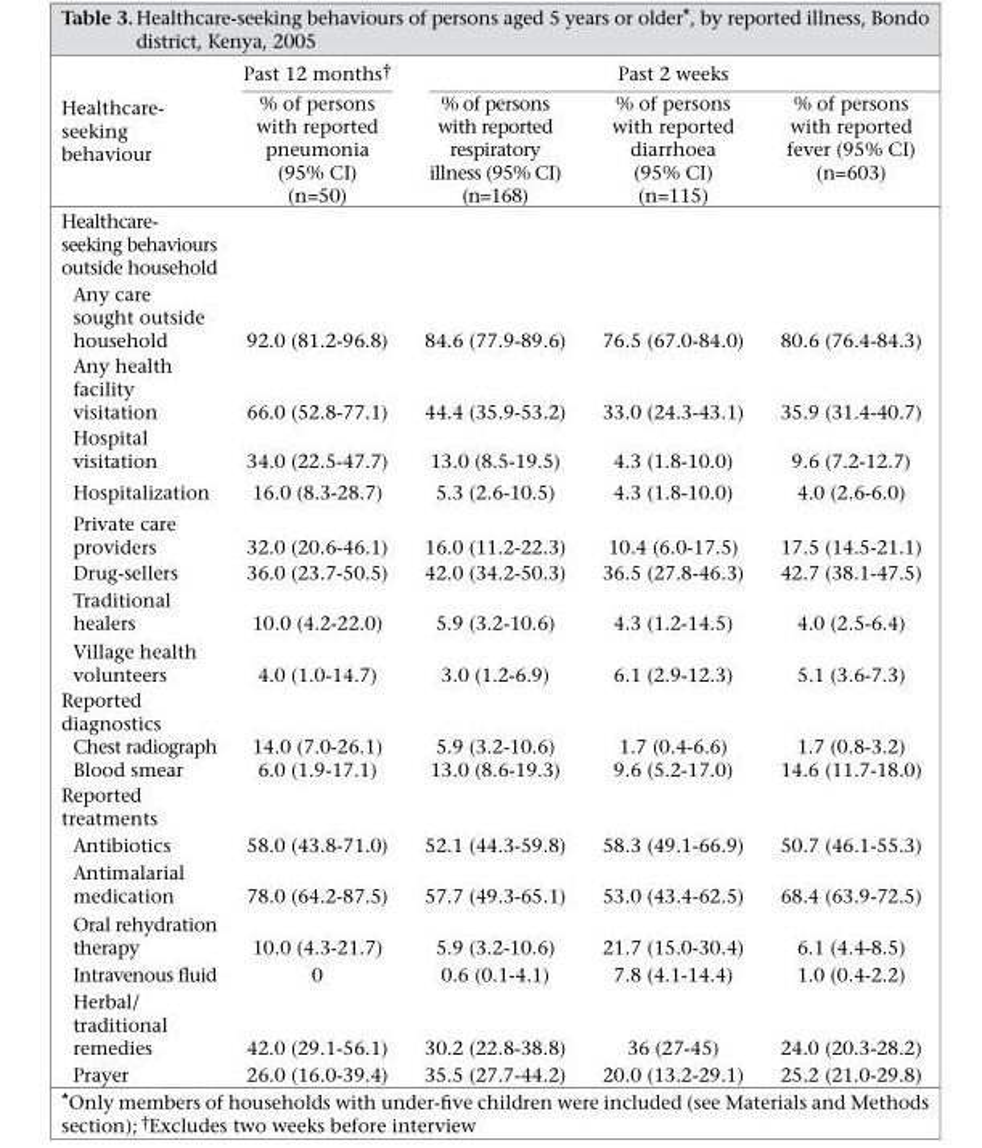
<table><thead><tr><td rowspan="2">Healthcare- seeking behaviour</td><td rowspan="2">Past 12 months† % of persons with reported pneumonia (95% CI) (n=50)</td><td colspan="3">Past 2 weeks</td></tr><tr><td>% of persons with reported respiratory illness (95% CI) (n=168)</td><td>% of persons with reported diarrhoea (95% CI) (n=115)</td><td>% of persons with reported fever (95% CI) (n=603)</td></tr></thead><tbody><tr><td colspan="5">Healthcare- seeking behaviours outside household</td></tr><tr><td>Any care sought outside household</td><td>92.0 (81.2-96.8)</td><td>84.6 (77.9-89.6)</td><td>76.5 (67.0-84.0)</td><td>80.6 (76.4-84.3)</td></tr><tr><td>Any health facility visitation</td><td>66.0 (52.8-77.1)</td><td>44.4 (35.9-53.2)</td><td>33.0 (24.3-43.1)</td><td>35.9 (31.4-40.7)</td></tr><tr><td>Hospital visitation</td><td>34.0 (22.5-47.7)</td><td>13.0 (8.5-19.5)</td><td>4.3 (1.8-10.0)</td><td>9.6 (7.2-12.7)</td></tr><tr><td>Hospitalization</td><td>16.0 (8.3-28.7)</td><td>5.3 (2.6-10.5)</td><td>4.3 (1.8-10.0)</td><td>4.0 (2.6-6.0)</td></tr><tr><td>Private care providers</td><td>32.0 (20.6-46.1)</td><td>16.0 (11.2-22.3)</td><td>10.4 (6.0-17.5)</td><td>17.5 (14.5-21.1)</td></tr><tr><td>Drug-sellers</td><td>36.0 (23.7-50.5)</td><td>42.0 (34.2-50.3)</td><td>36.5 (27.8-46.3)</td><td>42.7 (38.1-47.5)</td></tr><tr><td>Traditional healers</td><td>10.0 (4.2-22.0)</td><td>5.9 (3.2-10.6)</td><td>4.3 (1.2-14.5)</td><td>4.0 (2.5-6.4)</td></tr><tr><td>Village health volunteers</td><td>4.0 (1.0-14.7)</td><td>3.0 (1.2-6.9)</td><td>6.1 (2.9-12.3)</td><td>5.1 (3.6-7.3)</td></tr><tr><td colspan="5">Reported diagnostics</td></tr><tr><td>Chest radiograph</td><td>14.0 (7.0-26.1)</td><td>5.9 (3.2-10.6)</td><td>1.7 (0.4-6.6)</td><td>1.7 (0.8-3.2)</td></tr><tr><td>Blood smear</td><td>6.0 (1.9-17.1)</td><td>13.0 (8.6-19.3)</td><td>9.6 (5.2-17.0)</td><td>14.6 (11.7-18.0)</td></tr><tr><td colspan="5">Reported treatments</td></tr><tr><td>Antibiotics</td><td>58.0 (43.8-71.0)</td><td>52.1 (44.3-59.8)</td><td>58.3 (49.1-66.9)</td><td>50.7 (46.1-55.3)</td></tr><tr><td>Antimalarial medication</td><td>78.0 (64.2-87.5)</td><td>57.7 (49.3-65.1)</td><td>53.0 (43.4-62.5)</td><td>68.4 (63.9-72.5)</td></tr><tr><td>Oral rehydration therapy</td><td>10.0 (4.3-21.7)</td><td>5.9 (3.2-10.6)</td><td>21.7 (15.0-30.4)</td><td>6.1 (4.4-8.5)</td></tr><tr><td>Intravenous fluid</td><td>0</td><td>0.6 (0.1-4.1)</td><td>7.8 (4.1-14.4)</td><td>1.0 (0.4-2.2)</td></tr><tr><td colspan="5">Herbal/ traditional</td></tr><tr><td>remedies</td><td>42.0 (29.1-56.1)</td><td>30.2 (22.8-38.8)</td><td>36 (27-45)</td><td>24.0 (20.3-28.2)</td></tr><tr><td>Prayer</td><td>26.0 (16.0-39.4)</td><td>35.5 (27.7-44.2)</td><td>20.0 (13.2-29.1)</td><td>25.2 (21.0-29.8)</td></tr></tbody></table>